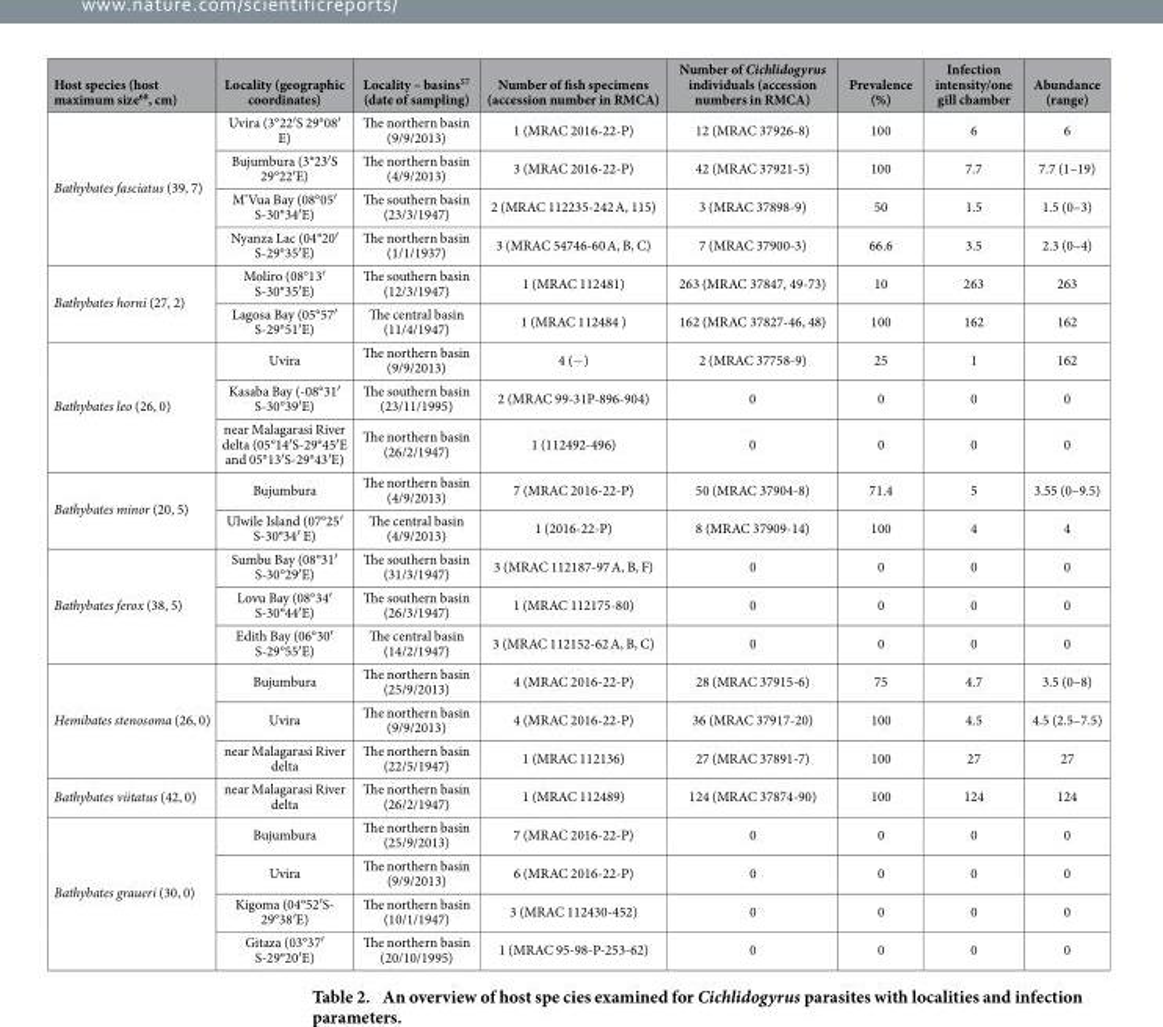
<table><thead><tr><td>Host species (host maximum size<sup>68</sup>, cm)</td><td>Locality (geographic coordinates)</td><td>Locality – basins<sup>57</sup> (date of sampling)</td><td>Number of fish specimens (accession number in RMCA)</td><td>Number of Cichlidogyrus individuals (accession numbers in RMCA)</td><td>Prevalence (%)</td><td>Infection intensity/one gill chamber</td><td>Abundance (range)</td></tr></thead><tbody><tr><td rowspan="4">Bathybates fasciatus (39, 7)</td><td>Uvira (3°22′ S 29°08′ E)</td><td>The northern basin (9/9/2013)</td><td>1 (MRAC 2016-22-P)</td><td>12 (MRAC 37926-8)</td><td>100</td><td>6</td><td>6</td></tr><tr><td>Bujumbura (3°23′ S 29°22′ E)</td><td>The northern basin (4/9/2013)</td><td>3 (MRAC 2016-22-P)</td><td>42 (MRAC 37921-5)</td><td>100</td><td>7.7</td><td>7.7 (1–19)</td></tr><tr><td>M’Vua Bay (08°05′ S-30°34′ E)</td><td>The southern basin (23/3/1947)</td><td>2 (MRAC 112235-242 A, 115)</td><td>3 (MRAC 37898-9)</td><td>50</td><td>1.5</td><td>1.5 (0–3)</td></tr><tr><td>Nyanza Lac (04°20′ S-29°35′ E)</td><td>The northern basin (1/1/1937)</td><td>3 (MRAC 54746-60 A, B, C)</td><td>7 (MRAC 37900-3)</td><td>66.6</td><td>3.5</td><td>2.3 (0–4)</td></tr><tr><td rowspan="2">Bathybates horni (27, 2)</td><td>Moliro (08°13′ S-30°35′ E)</td><td>The southern basin (12/3/1947)</td><td>1 (MRAC 112481)</td><td>263 (MRAC 37847, 49-73)</td><td>10</td><td>263</td><td>263</td></tr><tr><td>Lagosa Bay (05°57′ S-29°51′ E)</td><td>The central basin (11/4/1947)</td><td>1 (MRAC 112484 )</td><td>162 (MRAC 37827-46, 48)</td><td>100</td><td>162</td><td>162</td></tr><tr><td rowspan="3">Bathybates leo (26, 0)</td><td>Uvira</td><td>The northern basin (9/9/2013)</td><td>4 (−)</td><td>2 (MRAC 37758-9)</td><td>25</td><td>1</td><td>162</td></tr><tr><td>Kasaba Bay (-08°31′ S-30°39′ E)</td><td>The southern basin (23/11/1995)</td><td>2 (MRAC 99-31P-896-904)</td><td>0</td><td>0</td><td>0</td><td>0</td></tr><tr><td>near Malagarasi River delta (05°14′ S-29°45′ E and 05°13′ S-29°43′ E)</td><td>The northern basin (26/2/1947)</td><td>1 (112492-496)</td><td>0</td><td>0</td><td>0</td><td>0</td></tr><tr><td rowspan="2">Bathybates minor (20, 5)</td><td>Bujumbura</td><td>The northern basin (4/9/2013)</td><td>7 (MRAC 2016-22-P)</td><td>50 (MRAC 37904-8)</td><td>71.4</td><td>5</td><td>3.55 (0–9.5)</td></tr><tr><td>Ulwile Island (07°25′ S-30°34′ E)</td><td>The central basin (4/9/2013)</td><td>1 (2016-22-P)</td><td>8 (MRAC 37909-14)</td><td>100</td><td>4</td><td>4</td></tr><tr><td rowspan="3">Bathybates ferox (38, 5)</td><td>Sumbu Bay (08°31′ S-30°29′ E)</td><td>The southern basin (31/3/1947)</td><td>3 (MRAC 112187-97 A, B, F)</td><td>0</td><td>0</td><td>0</td><td>0</td></tr><tr><td>Lovu Bay (08°34′ S-30°44′ E)</td><td>The southern basin (26/3/1947)</td><td>1 (MRAC 112175-80)</td><td>0</td><td>0</td><td>0</td><td>0</td></tr><tr><td>Edith Bay (06°30′ S-29°55′ E)</td><td>The central basin (14/2/1947)</td><td>3 (MRAC 112152-62 A, B, C)</td><td>0</td><td>0</td><td>0</td><td>0</td></tr><tr><td rowspan="3">Hemibates stenosoma (26, 0)</td><td>Bujumbura</td><td>The northern basin (25/9/2013)</td><td>4 (MRAC 2016-22-P)</td><td>28 (MRAC 37915-6)</td><td>75</td><td>4.7</td><td>3.5 (0–8)</td></tr><tr><td>Uvira</td><td>The northern basin (9/9/2013)</td><td>4 (MRAC 2016-22-P)</td><td>36 (MRAC 37917-20)</td><td>100</td><td>4.5</td><td>4.5 (2.5–7.5)</td></tr><tr><td>near Malagarasi River delta</td><td>The northern basin (22/5/1947)</td><td>1 (MRAC 112136)</td><td>27 (MRAC 37891-7)</td><td>100</td><td>27</td><td>27</td></tr><tr><td>Bathybates viitatus (42, 0)</td><td>near Malagarasi River delta</td><td>The northern basin (26/2/1947)</td><td>1 (MRAC 112489)</td><td>124 (MRAC 37874-90)</td><td>100</td><td>124</td><td>124</td></tr><tr><td rowspan="4">Bathybates graueri (30, 0)</td><td>Bujumbura</td><td>The northern basin (25/9/2013)</td><td>7 (MRAC 2016-22-P)</td><td>0</td><td>0</td><td>0</td><td>0</td></tr><tr><td>Uvira</td><td>The northern basin (9/9/2013)</td><td>6 (MRAC 2016-22-P)</td><td>0</td><td>0</td><td>0</td><td>0</td></tr><tr><td>Kigoma (04°52′ S- 29°38′ E)</td><td>The northern basin (10/1/1947)</td><td>3 (MRAC 112430-452)</td><td>0</td><td>0</td><td>0</td><td>0</td></tr><tr><td>Gitaza (03°37′ S-29°20′ E)</td><td>The northern basin (20/10/1995)</td><td>1 (MRAC 95-98-P-253-62)</td><td>0</td><td>0</td><td>0</td><td>0</td></tr></tbody></table>